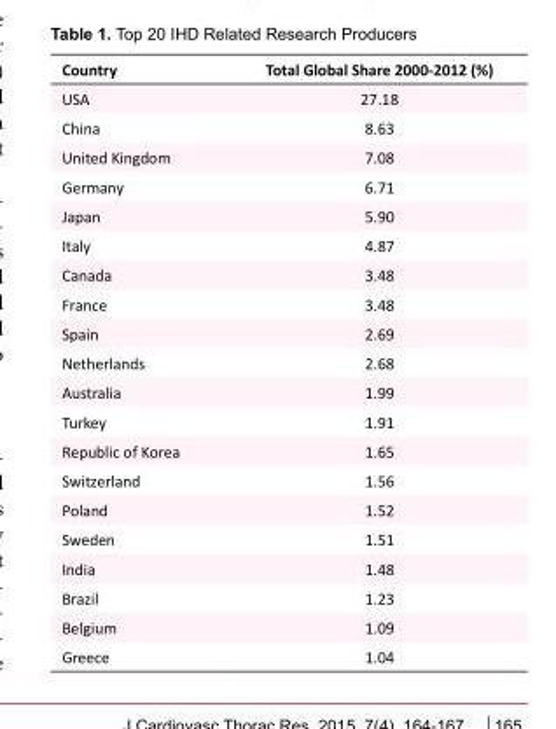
<table><tbody><tr><td>Country</td><td>Total Global Share 2000-2012 (%)</td></tr><tr><td>USA</td><td>27.18</td></tr><tr><td>China</td><td>8.63</td></tr><tr><td>United Kingdom</td><td>7.08</td></tr><tr><td>Germany</td><td>6.71</td></tr><tr><td>Japan</td><td>5.90</td></tr><tr><td>Italy</td><td>4.87</td></tr><tr><td>Canada</td><td>3.48</td></tr><tr><td>France</td><td>3.48</td></tr><tr><td>Spain</td><td>2.69</td></tr><tr><td>Netherlands</td><td>2.68</td></tr><tr><td>Australia</td><td>1.99</td></tr><tr><td>Turkey</td><td>1.91</td></tr><tr><td>Republic of Korea</td><td>1.65</td></tr><tr><td>Switzerland</td><td>1.56</td></tr><tr><td>Poland</td><td>1.52</td></tr><tr><td>Sweden</td><td>1.51</td></tr><tr><td>India</td><td>1.48</td></tr><tr><td>Brazil</td><td>1.23</td></tr><tr><td>Belgium</td><td>1.09</td></tr><tr><td>Greece</td><td>1.04</td></tr></tbody></table>